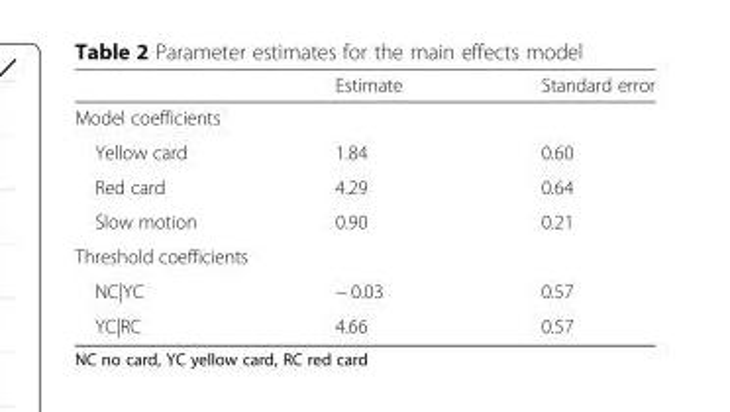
<table><thead><tr><td></td><td>Estimate</td><td>Standard error</td></tr></thead><tbody><tr><td colspan="3">Model coefficients</td></tr><tr><td>Yellow card</td><td>1.84</td><td>0.60</td></tr><tr><td>Red card</td><td>4.29</td><td>0.64</td></tr><tr><td>Slow motion</td><td>0.90</td><td>0.21</td></tr><tr><td colspan="3">Threshold coefficients</td></tr><tr><td>NC|YC</td><td>− 0.03</td><td>0.57</td></tr><tr><td>YC|RC</td><td>4.66</td><td>0.57</td></tr></tbody></table>